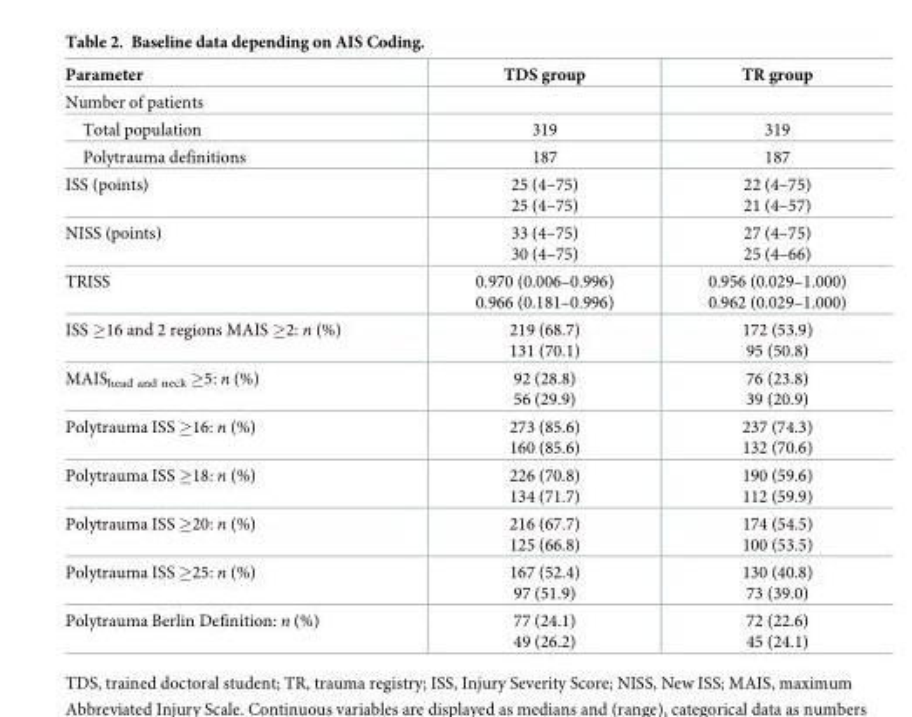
<table><thead><tr><td>Parameter</td><td>TDS group</td><td>TR group</td></tr></thead><tbody><tr><td colspan="3">Number of patients</td></tr><tr><td>Total population</td><td>319</td><td>319</td></tr><tr><td>Polytrauma definitions</td><td>187</td><td>187</td></tr><tr><td>ISS (points)</td><td>25 (4–75) 25 (4–75)</td><td>22 (4–75) 21 (4–57)</td></tr><tr><td>NISS (points)</td><td>33 (4–75) 30 (4–75)</td><td>27 (4–75) 25 (4–66)</td></tr><tr><td>TRISS</td><td>0.970 (0.006–0.996) 0.966 (0.181–0.996)</td><td>0.956 (0.029–1.000) 0.962 (0.029–1.000)</td></tr><tr><td>ISS ≥16 and 2 regions MAIS ≥2: n (%)</td><td>219 (68.7) 131 (70.1)</td><td>172 (53.9) 95 (50.8)</td></tr><tr><td>MAIS<sub>head and neck</sub> ≥5: n (%)</td><td>92 (28.8) 56 (29.9)</td><td>76 (23.8) 39 (20.9)</td></tr><tr><td>Polytrauma ISS ≥16: n (%)</td><td>273 (85.6) 160 (85.6)</td><td>237 (74.3) 132 (70.6)</td></tr><tr><td>Polytrauma ISS ≥18: n (%)</td><td>226 (70.8) 134 (71.7)</td><td>190 (59.6) 112 (59.9)</td></tr><tr><td>Polytrauma ISS ≥20: n (%)</td><td>216 (67.7) 125 (66.8)</td><td>174 (54.5) 100 (53.5)</td></tr><tr><td>Polytrauma ISS ≥25: n (%)</td><td>167 (52.4) 97 (51.9)</td><td>130 (40.8) 73 (39.0)</td></tr><tr><td>Polytrauma Berlin Definition: n (%)</td><td>77 (24.1) 49 (26.2)</td><td>72 (22.6) 45 (24.1)</td></tr></tbody></table>